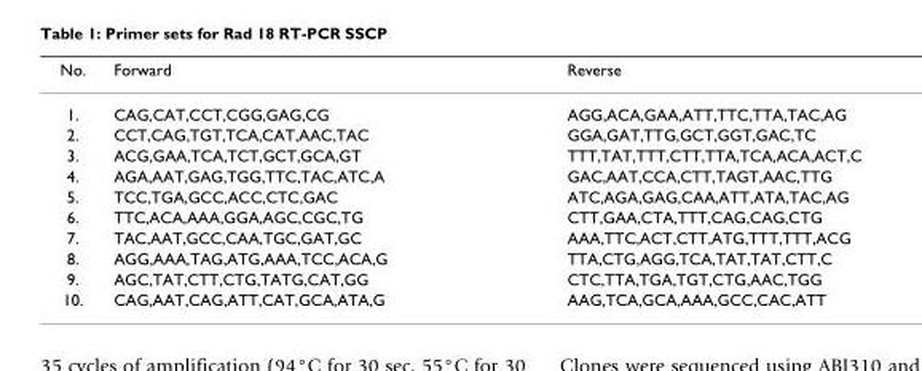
<table><thead><tr><td>No.</td><td>Forward</td><td>Reverse</td></tr></thead><tbody><tr><td>1.</td><td>CAG,CAT,CCT,CGG,GAG,CG</td><td>AGG,ACA,GAA,ATT,TTC,TTA,TAC,AG</td></tr><tr><td>2.</td><td>CCT,CAG,TGT,TCA,CAT,AAC,TAC</td><td>GGA,GAT,TTG,GCT,GGT,GAC,TC</td></tr><tr><td>3.</td><td>ACG,GAA,TCA,TCT,GCT,GCA,GT</td><td>TTT,TAT,TTT,CTT,TTA,TCA,ACA,ACT,C</td></tr><tr><td>4.</td><td>AGA,AAT,GAG,TGG,TTC,TAC,ATC,A</td><td>GAC,AAT,CCA,CTT,TAGT,AAC,TTG</td></tr><tr><td>5.</td><td>TCC,TGA,GCC,ACC,CTC,GAC</td><td>ATC,AGA,GAG,CAA,ATT,ATA,TAC,AG</td></tr><tr><td>6.</td><td>TTC,ACA,AAA,GGA,AGC,CGC,TG</td><td>CTT,GAA,CTA,TTT,CAG,CAG,CTG</td></tr><tr><td>7.</td><td>TAC,AAT,GCC,CAA,TGC,GAT,GC</td><td>AAA,TTC,ACT,CTT,ATG,TTT,TTT,ACG</td></tr><tr><td>8.</td><td>AGG,AAA,TAG,ATG,AAA,TCC,ACA,G</td><td>TTA,CTG,AGG,TCA,TAT,TAT,CTT,C</td></tr><tr><td>9.</td><td>AGC,TAT,CTT,CTG,TATG,CAT,GG</td><td>CTC,TTA,TGA,TGT,CTG,AAC,TGG</td></tr><tr><td>10.</td><td>CAG,AAT,CAG,ATT,CAT,GCA,ATA,G</td><td>AAG,TCA,GCA,AAA,GCC,CAC,ATT</td></tr></tbody></table>